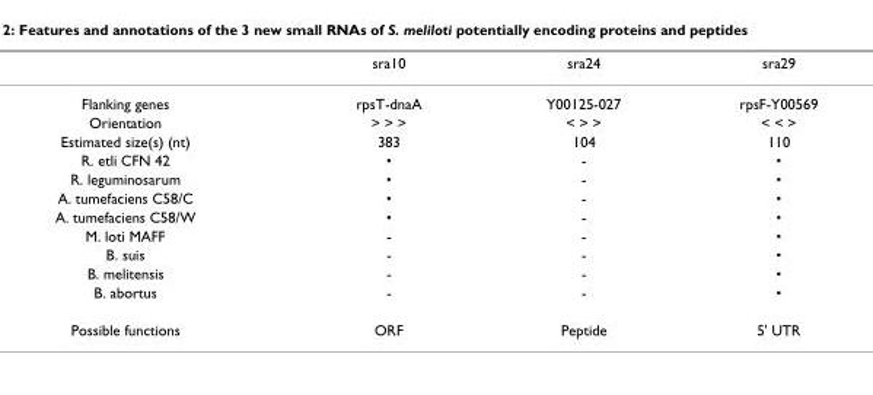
<table><thead><tr><td></td><td>sra10</td><td>sra24</td><td>sra29</td></tr></thead><tbody><tr><td>Flanking genes</td><td>rpsT-dnaA</td><td>Y00125-027</td><td>rpsF-Y00569</td></tr><tr><td>Orientation</td><td>&gt; &gt; &gt;</td><td>&lt; &gt; &gt;</td><td>&lt; &lt; &gt;</td></tr><tr><td>Estimated size(s) (nt)</td><td>383</td><td>104</td><td>110</td></tr><tr><td>R. etli CFN 42</td><td>•</td><td>-</td><td>•</td></tr><tr><td>R. leguminosarum</td><td>•</td><td>-</td><td>•</td></tr><tr><td>A. tumefaciens C58/C</td><td>•</td><td>-</td><td>•</td></tr><tr><td>A. tumefaciens C58/W</td><td>•</td><td>-</td><td>•</td></tr><tr><td>M. loti MAFF</td><td>-</td><td>-</td><td>•</td></tr><tr><td>B. suis</td><td>-</td><td>-</td><td>•</td></tr><tr><td>B. melitensis</td><td>-</td><td>-</td><td>•</td></tr><tr><td>B. abortus</td><td>-</td><td>-</td><td>•</td></tr><tr><td>Possible functions</td><td>ORF</td><td>Peptide</td><td>5&#x27; UTR</td></tr></tbody></table>